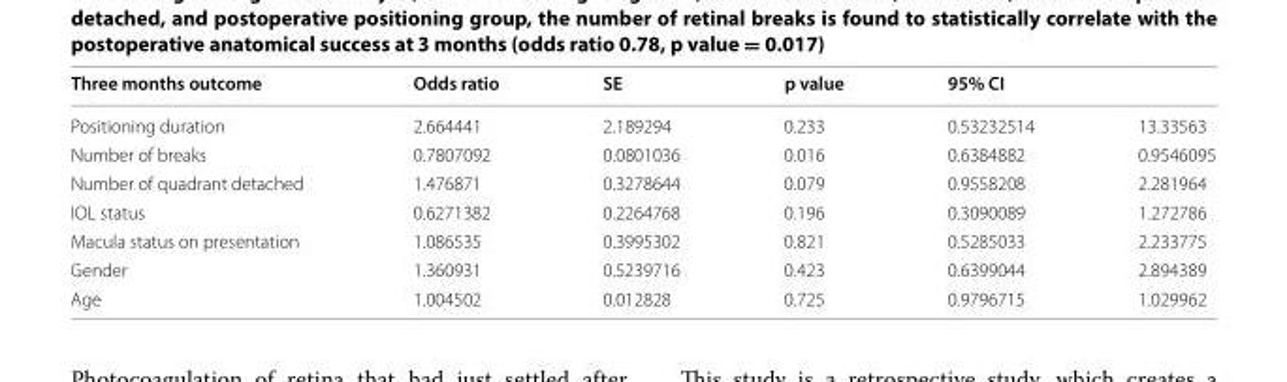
<table><thead><tr><td rowspan="2">Three months outcome Positioning duration</td><td rowspan="2">Odds ratio 2.664441</td><td rowspan="2">SE 2.189294</td><td rowspan="2">p value 0.233</td><td colspan="2">95% CI</td></tr><tr><td>0.53232514</td><td>13.33563</td></tr></thead><tbody><tr><td>Number of breaks</td><td>0.7807092</td><td>0.0801036</td><td>0.016</td><td>0.6384882</td><td>0.9546095</td></tr><tr><td>Number of quadrant detached</td><td>1.476871</td><td>0.3278644</td><td>0.079</td><td>0.9558208</td><td>2.281964</td></tr><tr><td>IOL status</td><td>0.6271382</td><td>0.2264768</td><td>0.196</td><td>0.3090089</td><td>1.272786</td></tr><tr><td>Macula status on presentation</td><td>1.086535</td><td>0.3995302</td><td>0.821</td><td>0.5285033</td><td>2.233775</td></tr><tr><td>Gender</td><td>1.360931</td><td>0.5239716</td><td>0.423</td><td>0.6399044</td><td>2.894389</td></tr><tr><td>Age</td><td>1.004502</td><td>0.012828</td><td>0.725</td><td>0.9796715</td><td>1.029962</td></tr></tbody></table>